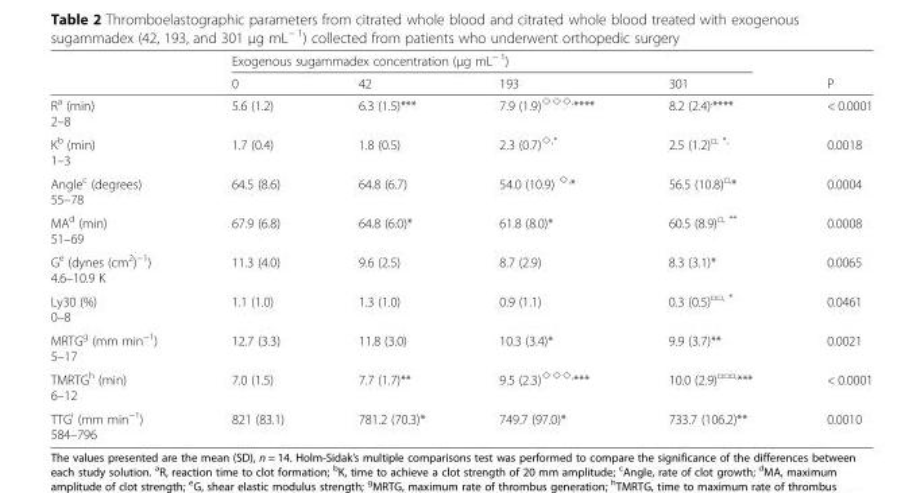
<table><thead><tr><td rowspan="2"></td><td colspan="4">Exogenous sugammadex concentration (μg mL<sup>− 1</sup>)</td><td rowspan="2">P</td></tr><tr><td>0</td><td>42</td><td>193</td><td>301</td></tr></thead><tbody><tr><td>R<sup>a</sup> (min) 2–8</td><td>5.6 (1.2)</td><td>6.3 (1.5)***</td><td>7.9 (1.9)<sup>◇◇◇,</sup>****</td><td>8.2 (2.4)<sup>,</sup>****</td><td>&lt; 0.0001</td></tr><tr><td>K<sup>b</sup> (min) 1–3</td><td>1.7 (0.4)</td><td>1.8 (0.5)</td><td>2.3 (0.7)<sup>◇,*</sup></td><td>2.5 (1.2)<sup>□, *,</sup></td><td>0.0018</td></tr><tr><td>Angle<sup>c</sup> (degrees) 55–78</td><td>64.5 (8.6)</td><td>64.8 (6.7)</td><td>54.0 (10.9) <sup>◇,</sup>*</td><td>56.5 (10.8)<sup>□,</sup>*</td><td>0.0004</td></tr><tr><td>MA<sup>d</sup> (min) 51–69</td><td>67.9 (6.8)</td><td>64.8 (6.0)*</td><td>61.8 (8.0)*</td><td>60.5 (8.9)<sup>□, **</sup></td><td>0.0008</td></tr><tr><td>G<sup>e</sup> (dynes (cm<sup>2</sup>)<sup>−1</sup>) 4.6–10.9 K</td><td>11.3 (4.0)</td><td>9.6 (2.5)</td><td>8.7 (2.9)</td><td>8.3 (3.1)*</td><td>0.0065</td></tr><tr><td>Ly30 (%) 0–8</td><td>1.1 (1.0)</td><td>1.3 (1.0)</td><td>0.9 (1.1)</td><td>0.3 (0.5)<sup>□□, *</sup></td><td>0.0461</td></tr><tr><td>MRTG<sup>g</sup> (mm min<sup>−1</sup>) 5–17</td><td>12.7 (3.3)</td><td>11.8 (3.0)</td><td>10.3 (3.4)*</td><td>9.9 (3.7)**</td><td>0.0021</td></tr><tr><td>TMRTG<sup>h</sup> (min) 6–12</td><td>7.0 (1.5)</td><td>7.7 (1.7)**</td><td>9.5 (2.3)<sup>◇◇◇,</sup>***</td><td>10.0 (2.9)<sup>□□□,</sup>***</td><td>&lt; 0.0001</td></tr><tr><td>TTG<sup>i</sup> (mm min<sup>−1</sup>) 584–796</td><td>821 (83.1)</td><td>781.2 (70.3)*</td><td>749.7 (97.0)*</td><td>733.7 (106.2)**</td><td>0.0010</td></tr></tbody></table>